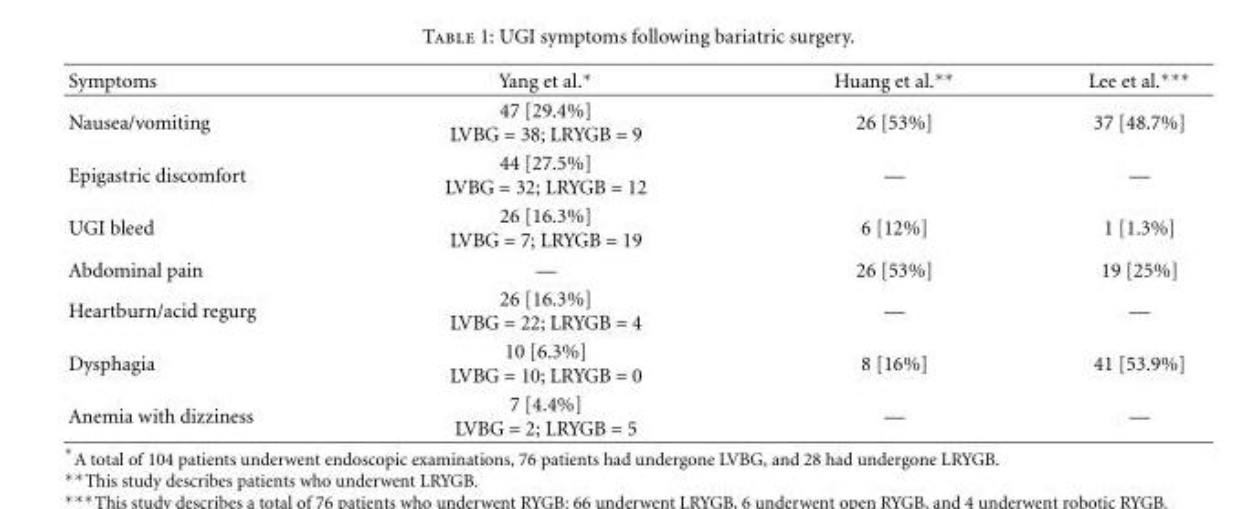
<table><thead><tr><td>Symptoms</td><td>Yang et al.∗</td><td>Huang et al.∗∗</td><td>Lee et al.∗∗∗</td></tr></thead><tbody><tr><td>Nausea/vomiting</td><td>47 [29.4%] LVBG = 38; LRYGB = 9</td><td>26 [53%]</td><td>37 [48.7%]</td></tr><tr><td>Epigastric discomfort</td><td>44 [27.5%] LVBG = 32; LRYGB = 12</td><td>—</td><td>—</td></tr><tr><td>UGI bleed</td><td>26 [16.3%] LVBG = 7; LRYGB = 19</td><td>6 [12%]</td><td>1 [1.3%]</td></tr><tr><td>Abdominal pain</td><td>—</td><td>26 [53%]</td><td>19 [25%]</td></tr><tr><td>Heartburn/acid regurg</td><td>26 [16.3%] LVBG = 22; LRYGB = 4</td><td>—</td><td>—</td></tr><tr><td>Dysphagia</td><td>10 [6.3%] LVBG = 10; LRYGB = 0</td><td>8 [16%]</td><td>41 [53.9%]</td></tr><tr><td>Anemia with dizziness</td><td>7 [4.4%] LVBG = 2; LRYGB = 5</td><td>—</td><td>—</td></tr></tbody></table>